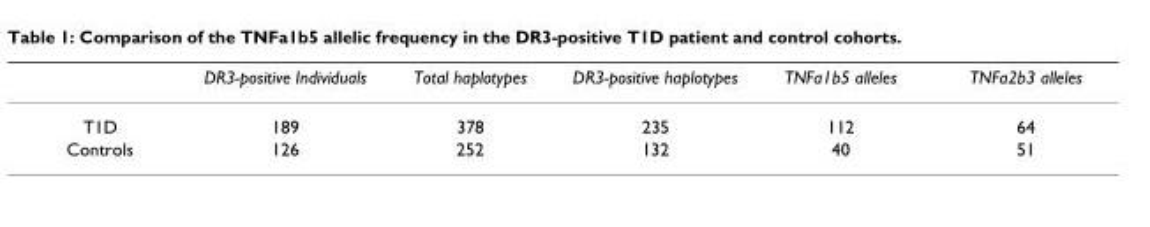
<table><thead><tr><td></td><td>DR3-positive Individuals</td><td>Total haplotypes</td><td>DR3-positive haplotypes</td><td>TNFa1b5 alleles</td><td>TNFa2b3 alleles</td></tr></thead><tbody><tr><td>T1D</td><td>189</td><td>378</td><td>235</td><td>112</td><td>64</td></tr><tr><td>Controls</td><td>126</td><td>252</td><td>132</td><td>40</td><td>51</td></tr></tbody></table>